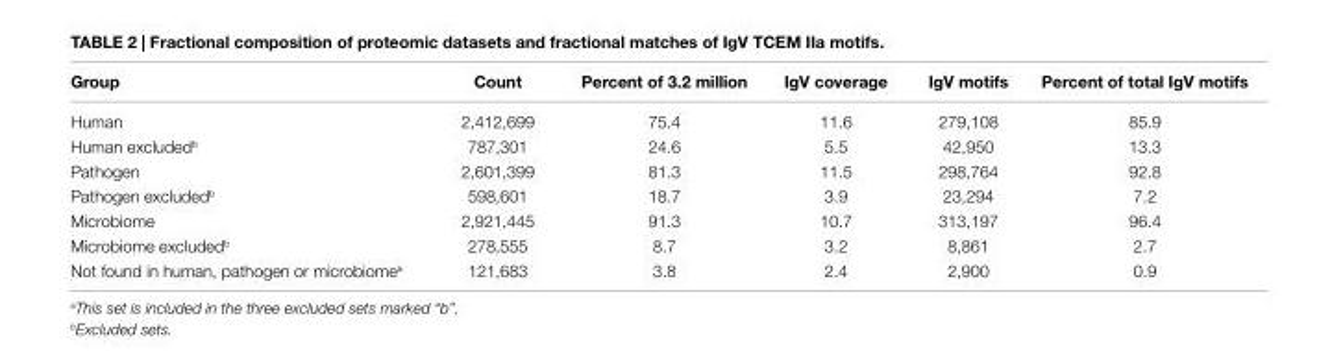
<table><thead><tr><td>group</td><td>count</td><td>Percent of 3.2 million</td><td>igV coverage</td><td>igV motifs</td><td>Percent of total igV motifs</td></tr></thead><tbody><tr><td>Human</td><td>2,412,699</td><td>75.4</td><td>11.6</td><td>279,108</td><td>85.9</td></tr><tr><td>Human excluded<sup>b</sup></td><td>787,301</td><td>24.6</td><td>5.5</td><td>42,950</td><td>13.3</td></tr><tr><td>Pathogen</td><td>2,601,399</td><td>81.3</td><td>11.5</td><td>298,764</td><td>92.8</td></tr><tr><td>Pathogen excluded<sup>b</sup></td><td>598,601</td><td>18.7</td><td>3.9</td><td>23,294</td><td>7.2</td></tr><tr><td>Microbiome</td><td>2,921,445</td><td>91.3</td><td>10.7</td><td>313,197</td><td>96.4</td></tr><tr><td>Microbiome excluded<sup>b</sup></td><td>278,555</td><td>8.7</td><td>3.2</td><td>8,861</td><td>2.7</td></tr><tr><td>Not found in human, pathogen or microbiome<sup>a</sup></td><td>121,683</td><td>3.8</td><td>2.4</td><td>2,900</td><td>0.9</td></tr></tbody></table>